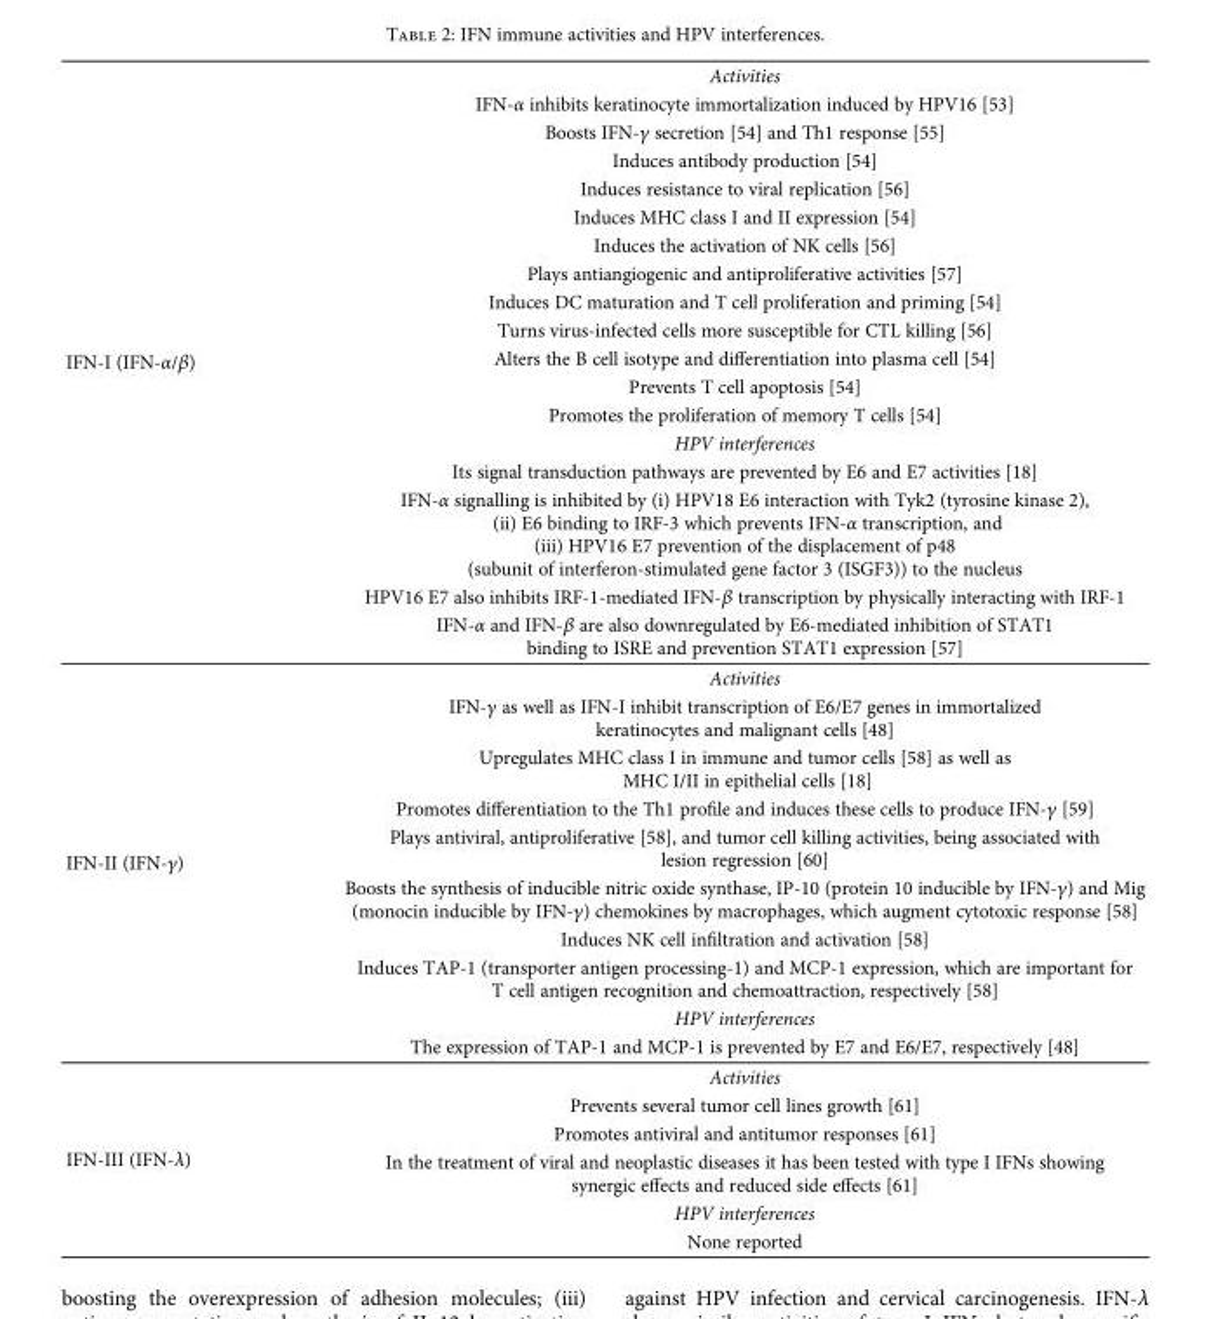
<table><tbody><tr><td rowspan="18">IFN-I (IFN-α/β)</td><td>Activities</td></tr><tr><td>IFN-α inhibits keratinocyte immortalization induced by HPV16 [53]</td></tr><tr><td>Boosts IFN-γ secretion [54] and Th1 response [55]</td></tr><tr><td>Induces antibody production [54]</td></tr><tr><td>Induces resistance to viral replication [56]</td></tr><tr><td>Induces MHC class I and II expression [54]</td></tr><tr><td>Induces the activation of NK cells [56]</td></tr><tr><td>Plays antiangiogenic and antiproliferative activities [57]</td></tr><tr><td>Induces DC maturation and T cell proliferation and priming [54]</td></tr><tr><td>Turns virus-infected cells more susceptible for CTL killing [56]</td></tr><tr><td>Alters the B cell isotype and differentiation into plasma cell [54]</td></tr><tr><td>Prevents T cell apoptosis [54]</td></tr><tr><td>Promotes the proliferation of memory T cells [54]</td></tr><tr><td>HPV interferences</td></tr><tr><td>Its signal transduction pathways are prevented by E6 and E7 activities [18]</td></tr><tr><td>IFN-α signalling is inhibited by (i) HPV18 E6 interaction with Tyk2 (tyrosine kinase 2), (ii) E6 binding to IRF-3 which prevents IFN-α transcription, and (iii) HPV16 E7 prevention of the displacement of p48 (subunit of interferon-stimulated gene factor 3 (ISGF3)) to the nucleus</td></tr><tr><td>HPV16 E7 also inhibits IRF-1-mediated IFN-β transcription by physically interacting with IRF-1</td></tr><tr><td>IFN-α and IFN-β are also downregulated by E6-mediated inhibition of STAT1 binding to ISRE and prevention STAT1 expression [57]</td></tr><tr><td rowspan="10">IFN-II (IFN-γ)</td><td>Activities</td></tr><tr><td>IFN-γ as well as IFN-I inhibit transcription of E6/E7 genes in immortalized keratinocytes and malignant cells [48]</td></tr><tr><td>Upregulates MHC class I in immune and tumor cells [58] as well as MHC I/II in epithelial cells [18]</td></tr><tr><td>Promotes differentiation to the Th1 profile and induces these cells to produce IFN-γ [59]</td></tr><tr><td>Plays antiviral, antiproliferative [58], and tumor cell killing activities, being associated with lesion regression [60]</td></tr><tr><td>Boosts the synthesis of inducible nitric oxide synthase, IP-10 (protein 10 inducible by IFN-γ) and Mig (monocin inducible by IFN-γ) chemokines by macrophages, which augment cytotoxic response [58]</td></tr><tr><td>Induces NK cell infiltration and activation [58]</td></tr><tr><td>Induces TAP-1 (transporter antigen processing-1) and MCP-1 expression, which are important for T cell antigen recognition and chemoattraction, respectively [58]</td></tr><tr><td>HPV interferences</td></tr><tr><td>The expression of TAP-1 and MCP-1 is prevented by E7 and E6/E7, respectively [48]</td></tr><tr><td rowspan="6">IFN-III (IFN-λ)</td><td>Activities</td></tr><tr><td>Prevents several tumor cell lines growth [61]</td></tr><tr><td>Promotes antiviral and antitumor responses [61]</td></tr><tr><td>In the treatment of viral and neoplastic diseases it has been tested with type I IFNs showing synergic effects and reduced side effects [61]</td></tr><tr><td>HPV interferences</td></tr><tr><td>None reported</td></tr></tbody></table>